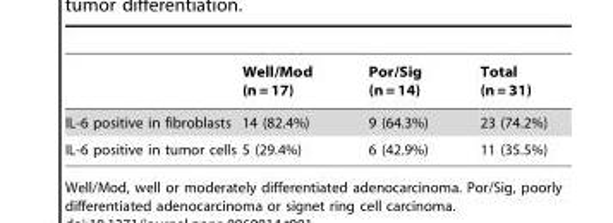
<table><thead><tr><td></td><td>Well/Mod (n = 17)</td><td>Por/Sig (n = 14)</td><td>Total (n = 31)</td></tr></thead><tbody><tr><td>IL-6 positive in fibroblasts</td><td>14 (82.4%)</td><td>9 (64.3%)</td><td>23 (74.2%)</td></tr><tr><td>IL-6 positive in tumor cells</td><td>5 (29.4%)</td><td>6 (42.9%)</td><td>11 (35.5%)</td></tr></tbody></table>